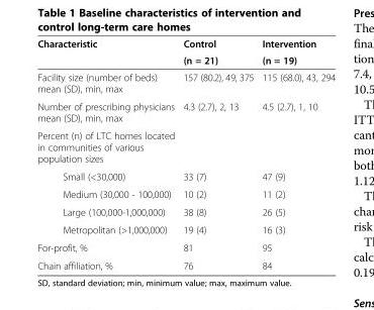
<table><thead><tr><td rowspan="2">Characteristic</td><td rowspan="2">Control (n = 21)</td><td rowspan="2">Intervention (n = 19)</td></tr><tr></tr></thead><tbody><tr><td>Facility size (number of beds) mean (SD), min, max</td><td>157 (80.2), 49, 375</td><td>115 (68.0), 43, 294</td></tr><tr><td>Number of prescribing physicians mean (SD), min, max</td><td>4.3 (2.7), 2, 13</td><td>4.5 (2.7), 1, 10</td></tr><tr><td colspan="3">Percent (n) of LTC homes located in communities of various population sizes</td></tr><tr><td>Small (&lt;30,000)</td><td>33 (7)</td><td>47 (9)</td></tr><tr><td>Medium (30,000 - 100,000)</td><td>10 (2)</td><td>11 (2)</td></tr><tr><td>Large (100,000-1,000,000)</td><td>38 (8)</td><td>26 (5)</td></tr><tr><td>Metropolitan (&gt;1,000,000)</td><td>19 (4)</td><td>16 (3)</td></tr><tr><td>For-profit, %</td><td>81</td><td>95</td></tr><tr><td>Chain affiliation, %</td><td>76</td><td>84</td></tr></tbody></table>